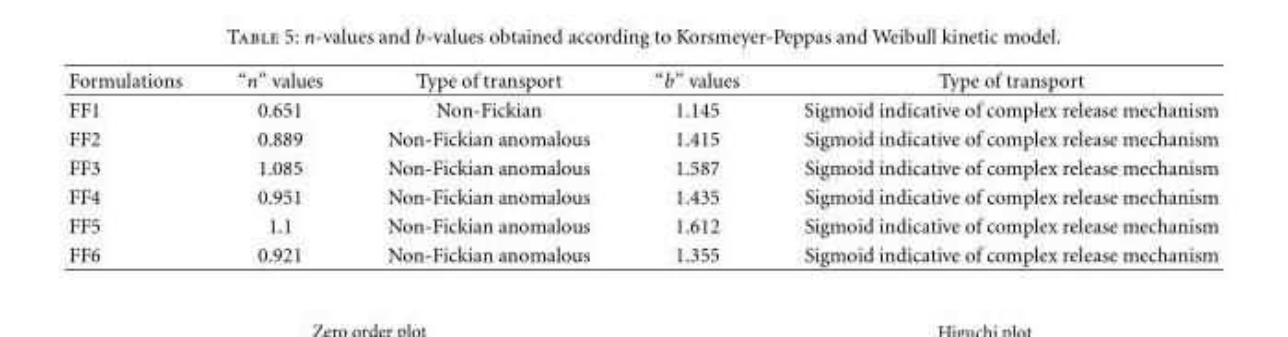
<table><thead><tr><td>Formulations</td><td>“n” values</td><td>Type of transport</td><td>“b” values</td><td>Type of transport</td></tr></thead><tbody><tr><td>FF1</td><td>0.651</td><td>Non-Fickian</td><td>1.145</td><td>Sigmoid indicative of complex release mechanism</td></tr><tr><td>FF2</td><td>0.889</td><td>Non-Fickian anomalous</td><td>1.415</td><td>Sigmoid indicative of complex release mechanism</td></tr><tr><td>FF3</td><td>1.085</td><td>Non-Fickian anomalous</td><td>1.587</td><td>Sigmoid indicative of complex release mechanism</td></tr><tr><td>FF4</td><td>0.951</td><td>Non-Fickian anomalous</td><td>1.435</td><td>Sigmoid indicative of complex release mechanism</td></tr><tr><td>FF5</td><td>1.1</td><td>Non-Fickian anomalous</td><td>1.612</td><td>Sigmoid indicative of complex release mechanism</td></tr><tr><td>FF6</td><td>0.921</td><td>Non-Fickian anomalous</td><td>1.355</td><td>Sigmoid indicative of complex release mechanism</td></tr></tbody></table>